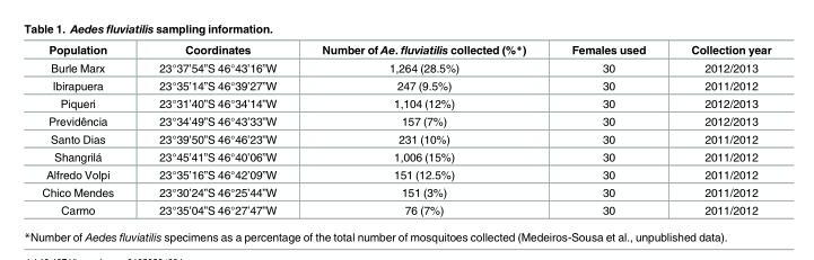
<table><thead><tr><td>Population</td><td>Coordinates</td><td>Number of Ae. fluviatilis collected (%*)</td><td>Females used</td><td>Collection year</td></tr></thead><tbody><tr><td>Burle Marx</td><td>23°37’54”S 46°43’16”W</td><td>1,264 (28.5%)</td><td>30</td><td>2012/2013</td></tr><tr><td>Ibirapuera</td><td>23°35’14”S 46°39’27”W</td><td>247 (9.5%)</td><td>30</td><td>2011/2012</td></tr><tr><td>Piqueri</td><td>23°31’40”S 46°34’14”W</td><td>1,104 (12%)</td><td>30</td><td>2012/2013</td></tr><tr><td>Previdência</td><td>23°34’49”S 46°43’33”W</td><td>157 (7%)</td><td>30</td><td>2012/2013</td></tr><tr><td>Santo Dias</td><td>23°39’50”S 46°46’23”W</td><td>231 (10%)</td><td>30</td><td>2011/2012</td></tr><tr><td>Shangrilá</td><td>23°45’41”S 46°40’06”W</td><td>1,006 (15%)</td><td>30</td><td>2011/2012</td></tr><tr><td>Alfredo Volpi</td><td>23°35’16”S 46°42’09”W</td><td>151 (12.5%)</td><td>30</td><td>2011/2012</td></tr><tr><td>Chico Mendes</td><td>23°30’24”S 46°25’44”W</td><td>151 (3%)</td><td>30</td><td>2011/2012</td></tr><tr><td>Carmo</td><td>23°35’04”S 46°27’47”W</td><td>76 (7%)</td><td>30</td><td>2011/2012</td></tr></tbody></table>